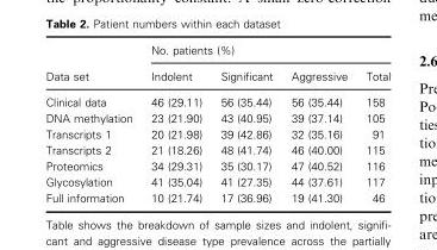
<table><thead><tr><td rowspan="2">Data set</td><td colspan="4">No. patients (%)</td></tr><tr><td>Indolent</td><td>Significant</td><td>Aggressive</td><td>Total</td></tr></thead><tbody><tr><td>Clinical data</td><td>46 (29.11)</td><td>56 (35.44)</td><td>56 (35.44)</td><td>158</td></tr><tr><td>DNA methylation</td><td>23 (21.90)</td><td>43 (40.95)</td><td>39 (37.14)</td><td>105</td></tr><tr><td>Transcripts 1</td><td>20 (21.98)</td><td>39 (42.86)</td><td>32 (35.16)</td><td>91</td></tr><tr><td>Transcripts 2</td><td>21 (18.26)</td><td>48 (41.74)</td><td>46 (40.00)</td><td>115</td></tr><tr><td>Proteomics</td><td>34 (29.31)</td><td>35 (30.17)</td><td>47 (40.52)</td><td>116</td></tr><tr><td>Glycosylation</td><td>41 (35.04)</td><td>41 (27.35)</td><td>44 (37.61)</td><td>117</td></tr><tr><td>Full information</td><td>10 (21.74)</td><td>17 (36.96)</td><td>19 (41.30)</td><td>46</td></tr></tbody></table>